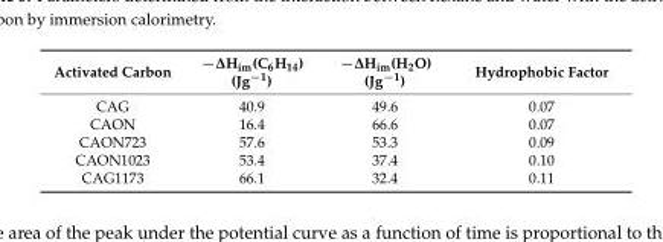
<table><thead><tr><td>Activated Carbon</td><td>−∆H<sub>im</sub>(C<sub>6</sub>H<sub>14</sub>) (Jg<sup>−1</sup>)</td><td>−∆H<sub>im</sub>(H<sub>2</sub>O) (Jg<sup>−1</sup>)</td><td>Hydrophobic Factor</td></tr></thead><tbody><tr><td>CAG</td><td>40.9</td><td>49.6</td><td>0.07</td></tr><tr><td>CAON</td><td>16.4</td><td>66.6</td><td>0.07</td></tr><tr><td>CAON723</td><td>57.6</td><td>53.3</td><td>0.09</td></tr><tr><td>CAON1023</td><td>53.4</td><td>37.4</td><td>0.10</td></tr><tr><td>CAG1173</td><td>66.1</td><td>32.4</td><td>0.11</td></tr></tbody></table>